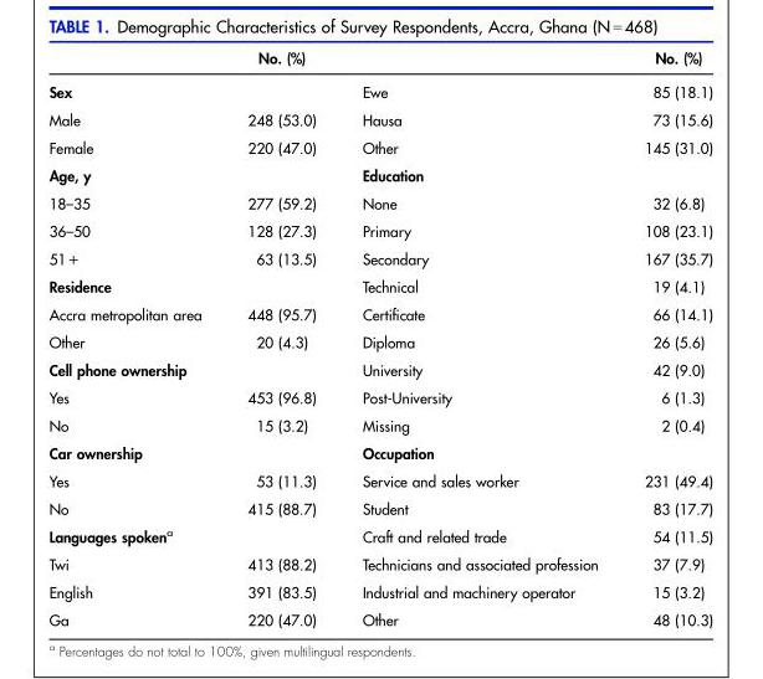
<table><thead><tr><td></td><td>No. (%)</td><td></td><td>No. (%)</td></tr></thead><tbody><tr><td>Sex</td><td></td><td>Ewe</td><td>85 (18.1)</td></tr><tr><td>Male</td><td>248 (53.0)</td><td>Hausa</td><td>73 (15.6)</td></tr><tr><td>Female</td><td>220 (47.0)</td><td>Other</td><td>145 (31.0)</td></tr><tr><td>Age, y</td><td></td><td>Education</td><td></td></tr><tr><td>18–35</td><td>277 (59.2)</td><td>None</td><td>32 (6.8)</td></tr><tr><td>36–50</td><td>128 (27.3)</td><td>Primary</td><td>108 (23.1)</td></tr><tr><td>51+</td><td>63 (13.5)</td><td>Secondary</td><td>167 (35.7)</td></tr><tr><td>Residence</td><td></td><td>Technical</td><td>19 (4.1)</td></tr><tr><td>Accra metropolitan area</td><td>448 (95.7)</td><td>Certificate</td><td>66 (14.1)</td></tr><tr><td>Other</td><td>20 (4.3)</td><td>Diploma</td><td>26 (5.6)</td></tr><tr><td>Cell phone ownership</td><td></td><td>University</td><td>42 (9.0)</td></tr><tr><td>Yes</td><td>453 (96.8)</td><td>Post-University</td><td>6 (1.3)</td></tr><tr><td>No</td><td>15 (3.2)</td><td>Missing</td><td>2 (0.4)</td></tr><tr><td>Car ownership</td><td></td><td>Occupation</td><td></td></tr><tr><td>Yes</td><td>53 (11.3)</td><td>Service and sales worker</td><td>231 (49.4)</td></tr><tr><td>No</td><td>415 (88.7)</td><td>Student</td><td>83 (17.7)</td></tr><tr><td>Languages spoken<sup>a</sup></td><td></td><td>Craft and related trade</td><td>54 (11.5)</td></tr><tr><td>Twi</td><td>413 (88.2)</td><td>Technicians and associated profession</td><td>37 (7.9)</td></tr><tr><td>English</td><td>391 (83.5)</td><td>Industrial and machinery operator</td><td>15 (3.2)</td></tr><tr><td>Ga</td><td>220 (47.0)</td><td>Other</td><td>48 (10.3)</td></tr></tbody></table>